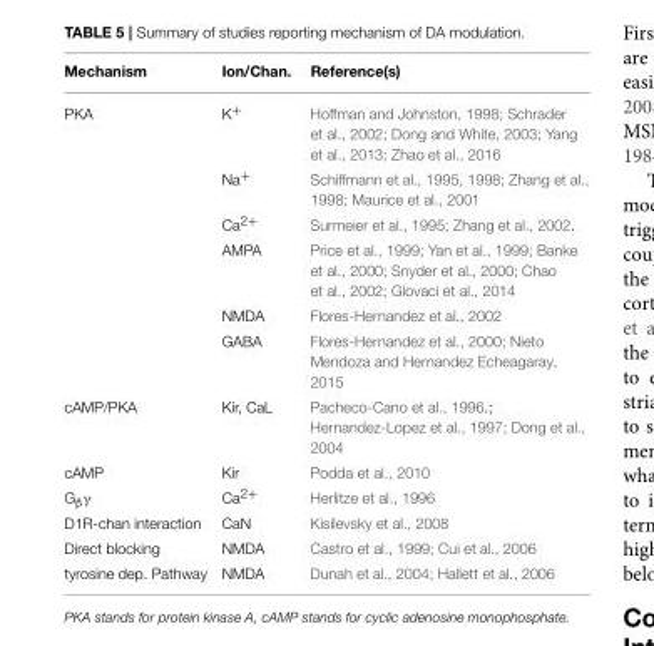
<table><thead><tr><td>Mechanism</td><td>Ion/Chan.</td><td>Reference(s)</td></tr></thead><tbody><tr><td rowspan="6">PKA</td><td>K<sup>+</sup></td><td>Hoffman and Johnston, 1998; Schrader et al., 2002; Dong and White, 2003; Yang et al., 2013; Zhao et al., 2016</td></tr><tr><td>Na<sup>+</sup></td><td>Schiffmann et al., 1995, 1998; Zhang et al., 1998; Maurice et al., 2001</td></tr><tr><td>Ca<sup>2+</sup></td><td>Surmeier et al., 1995; Zhang et al., 2002.</td></tr><tr><td>AMPA</td><td>Price et al., 1999; Yan et al., 1999; Banke et al., 2000; Snyder et al., 2000; Chao et al., 2002; Glovaci et al., 2014</td></tr><tr><td>NMDA</td><td>Flores-Hernandez et al., 2002</td></tr><tr><td>GABA</td><td>Flores-Hernandez et al., 2000; Nieto Mendoza and Hernandez Echeagaray, 2015</td></tr><tr><td>cAMP/PKA</td><td>Kir, CaL</td><td>Pacheco-Cano et al., 1996.; Hernandez-Lopez et al., 1997; Dong et al., 2004</td></tr><tr><td>cAMP</td><td>Kir</td><td>Podda et al., 2010</td></tr><tr><td>G<sub>β</sub>γ</td><td>Ca<sup>2+</sup></td><td>Herlitze et al., 1996</td></tr><tr><td>D1R-chan interaction</td><td>CaN</td><td>Kisilevsky et al., 2008</td></tr><tr><td>Direct blocking</td><td>NMDA</td><td>Castro et al., 1999; Cui et al., 2006</td></tr><tr><td>tyrosine dep. Pathway</td><td>NMDA</td><td>Dunah et al., 2004; Hallett et al., 2006</td></tr></tbody></table>